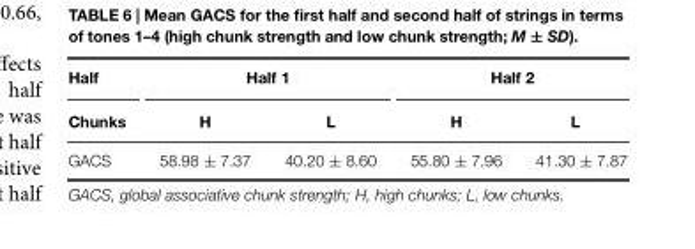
<table><thead><tr><td rowspan="2">Half Chunks</td><td colspan="2">Half 1</td><td colspan="2">Half 2</td></tr><tr><td>H</td><td>L</td><td>H</td><td>L</td></tr></thead><tbody><tr><td>GACS</td><td>58.98 ± 7.37</td><td>40.20 ± 8.60</td><td>55.80 ± 7.96</td><td>41.30 ± 7.87</td></tr></tbody></table>